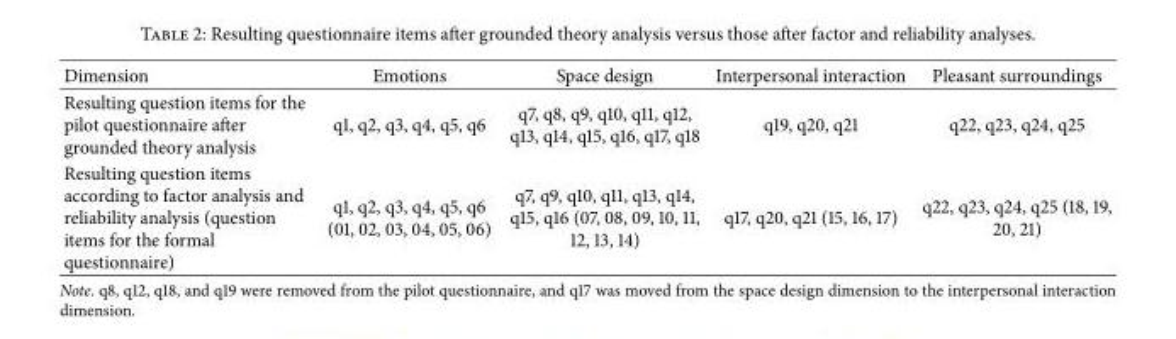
<table><thead><tr><td>Dimension</td><td>Emotions</td><td>Space design</td><td>Interpersonal interaction</td><td>Pleasant surroundings</td></tr></thead><tbody><tr><td>Resulting question items for the pilot questionnaire after grounded theory analysis</td><td>q1, q2, q3, q4, q5, q6</td><td>q7, q8, q9, q10, q11, q12, q13, q14, q15, q16, q17, q18</td><td>q19, q20, q21</td><td>q22, q23, q24, q25</td></tr><tr><td>Resulting question items according to factor analysis and reliability analysis (question items for the formal questionnaire)</td><td>q1, q2, q3, q4, q5, q6 (01, 02, 03, 04, 05, 06)</td><td>q7, q9, q10, q11, q13, q14, q15, q16 (07, 08, 09, 10, 11, 12, 13, 14)</td><td>q17, q20, q21 (15, 16, 17)</td><td>q22, q23, q24, q25 (18, 19, 20, 21)</td></tr></tbody></table>